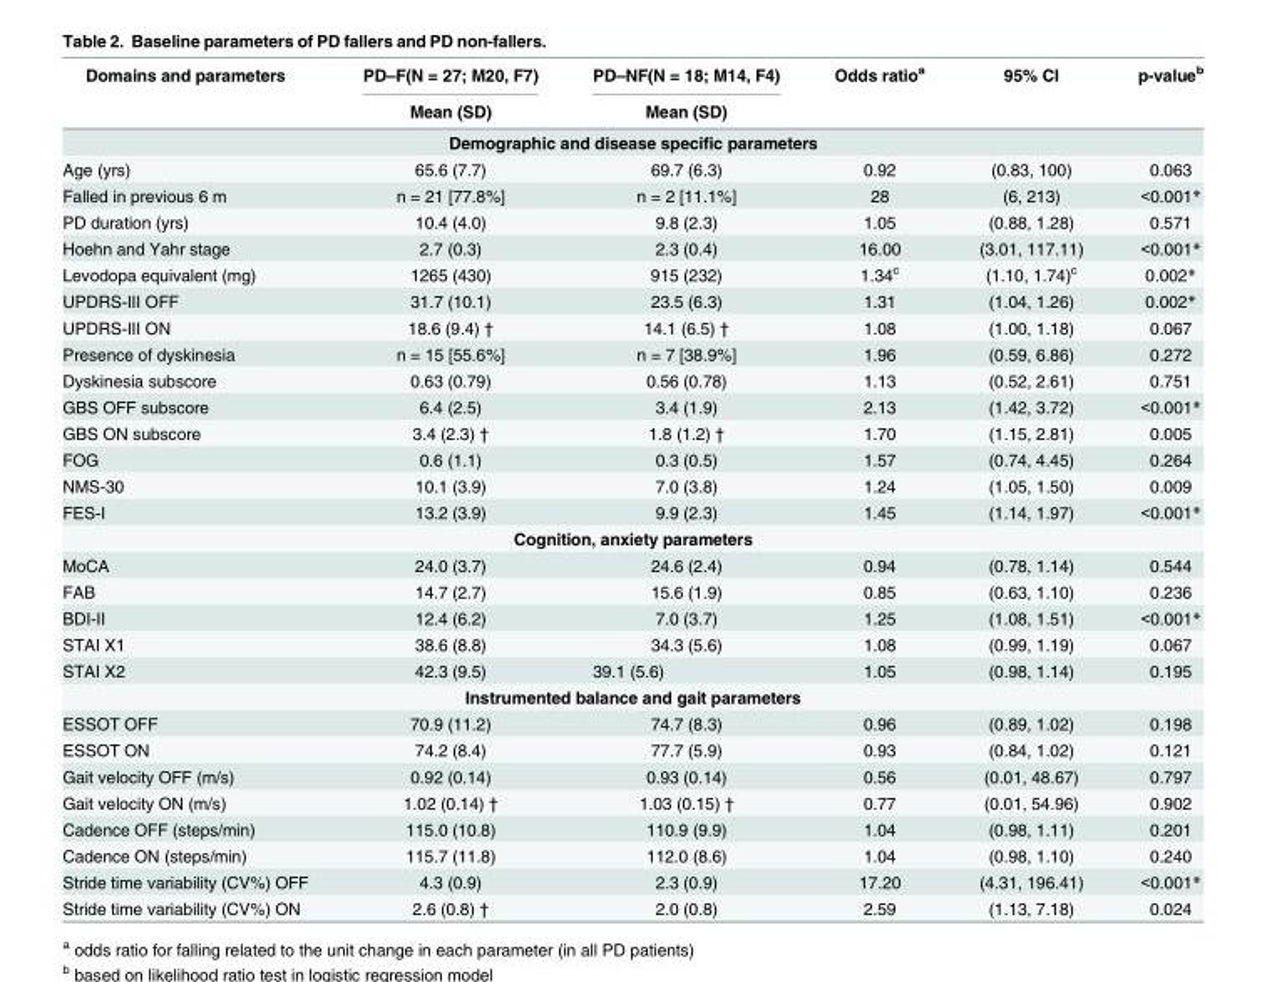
<table><thead><tr><td rowspan="2">Domains and parameters</td><td rowspan="2">PD–F(N = 27; M20, F7) Mean (SD)</td><td rowspan="2">PD–NF(N = 18; M14, F4) Mean (SD)</td><td rowspan="2">Odds ratio<sup>a</sup></td><td rowspan="2">95% CI</td><td rowspan="2">p-value<sup>b</sup></td></tr><tr></tr></thead><tbody><tr><td colspan="6">Demographic and disease specific parameters</td></tr><tr><td>Age (yrs)</td><td>65.6 (7.7)</td><td>69.7 (6.3)</td><td>0.92</td><td>(0.83, 100)</td><td>0.063</td></tr><tr><td>Falled in previous 6 m</td><td>n = 21 [77.8%]</td><td>n = 2 [11.1%]</td><td>28</td><td>(6, 213)</td><td>&lt;0.001*</td></tr><tr><td>PD duration (yrs)</td><td>10.4 (4.0)</td><td>9.8 (2.3)</td><td>1.05</td><td>(0.88, 1.28)</td><td>0.571</td></tr><tr><td>Hoehn and Yahr stage</td><td>2.7 (0.3)</td><td>2.3 (0.4)</td><td>16.00</td><td>(3.01, 117.11)</td><td>&lt;0.001*</td></tr><tr><td>Levodopa equivalent (mg)</td><td>1265 (430)</td><td>915 (232)</td><td>1.34<sup>c</sup></td><td>(1.10, 1.74)<sup>c</sup></td><td>0.002*</td></tr><tr><td>UPDRS-III OFF</td><td>31.7 (10.1)</td><td>23.5 (6.3)</td><td>1.31</td><td>(1.04, 1.26)</td><td>0.002*</td></tr><tr><td>UPDRS-III ON</td><td>18.6 (9.4) †</td><td>14.1 (6.5) †</td><td>1.08</td><td>(1.00, 1.18)</td><td>0.067</td></tr><tr><td>Presence of dyskinesia</td><td>n = 15 [55.6%]</td><td>n = 7 [38.9%]</td><td>1.96</td><td>(0.59, 6.86)</td><td>0.272</td></tr><tr><td>Dyskinesia subscore</td><td>0.63 (0.79)</td><td>0.56 (0.78)</td><td>1.13</td><td>(0.52, 2.61)</td><td>0.751</td></tr><tr><td>GBS OFF subscore</td><td>6.4 (2.5)</td><td>3.4 (1.9)</td><td>2.13</td><td>(1.42, 3.72)</td><td>&lt;0.001*</td></tr><tr><td>GBS ON subscore</td><td>3.4 (2.3) †</td><td>1.8 (1.2) †</td><td>1.70</td><td>(1.15, 2.81)</td><td>0.005</td></tr><tr><td>FOG</td><td>0.6 (1.1)</td><td>0.3 (0.5)</td><td>1.57</td><td>(0.74, 4.45)</td><td>0.264</td></tr><tr><td>NMS-30</td><td>10.1 (3.9)</td><td>7.0 (3.8)</td><td>1.24</td><td>(1.05, 1.50)</td><td>0.009</td></tr><tr><td>FES-I</td><td>13.2 (3.9)</td><td>9.9 (2.3)</td><td>1.45</td><td>(1.14, 1.97)</td><td>&lt;0.001*</td></tr><tr><td colspan="6">Cognition, anxiety parameters</td></tr><tr><td>MoCA</td><td>24.0 (3.7)</td><td>24.6 (2.4)</td><td>0.94</td><td>(0.78, 1.14)</td><td>0.544</td></tr><tr><td>FAB</td><td>14.7 (2.7)</td><td>15.6 (1.9)</td><td>0.85</td><td>(0.63, 1.10)</td><td>0.236</td></tr><tr><td>BDI-II</td><td>12.4 (6.2)</td><td>7.0 (3.7)</td><td>1.25</td><td>(1.08, 1.51)</td><td>&lt;0.001*</td></tr><tr><td>STAI X1</td><td>38.6 (8.8)</td><td>34.3 (5.6)</td><td>1.08</td><td>(0.99, 1.19)</td><td>0.067</td></tr><tr><td>STAI X2</td><td>42.3 (9.5)</td><td>39.1 (5.6)</td><td>1.05</td><td>(0.98, 1.14)</td><td>0.195</td></tr><tr><td colspan="6">Instrumented balance and gait parameters</td></tr><tr><td>ESSOT OFF</td><td>70.9 (11.2)</td><td>74.7 (8.3)</td><td>0.96</td><td>(0.89, 1.02)</td><td>0.198</td></tr><tr><td>ESSOT ON</td><td>74.2 (8.4)</td><td>77.7 (5.9)</td><td>0.93</td><td>(0.84, 1.02)</td><td>0.121</td></tr><tr><td>Gait velocity OFF (m/s)</td><td>0.92 (0.14)</td><td>0.93 (0.14)</td><td>0.56</td><td>(0.01, 48.67)</td><td>0.797</td></tr><tr><td>Gait velocity ON (m/s)</td><td>1.02 (0.14) †</td><td>1.03 (0.15) †</td><td>0.77</td><td>(0.01, 54.96)</td><td>0.902</td></tr><tr><td>Cadence OFF (steps/min)</td><td>115.0 (10.8)</td><td>110.9 (9.9)</td><td>1.04</td><td>(0.98, 1.11)</td><td>0.201</td></tr><tr><td>Cadence ON (steps/min)</td><td>115.7 (11.8)</td><td>112.0 (8.6)</td><td>1.04</td><td>(0.98, 1.10)</td><td>0.240</td></tr><tr><td>Stride time variability (CV%) OFF</td><td>4.3 (0.9)</td><td>2.3 (0.9)</td><td>17.20</td><td>(4.31, 196.41)</td><td>&lt;0.001*</td></tr><tr><td>Stride time variability (CV%) ON</td><td>2.6 (0.8) †</td><td>2.0 (0.8)</td><td>2.59</td><td>(1.13, 7.18)</td><td>0.024</td></tr></tbody></table>